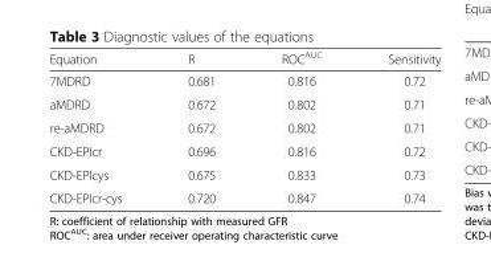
<table><thead><tr><td>Equation</td><td>R</td><td>ROC<sup>AUC</sup></td><td>Sensitivity</td></tr></thead><tbody><tr><td>7MDRD</td><td>0.681</td><td>0.816</td><td>0.72</td></tr><tr><td>aMDRD</td><td>0.672</td><td>0.802</td><td>0.71</td></tr><tr><td>re-aMDRD</td><td>0.672</td><td>0.802</td><td>0.71</td></tr><tr><td>CKD-EPIcr</td><td>0.696</td><td>0.816</td><td>0.72</td></tr><tr><td>CKD-EPIcys</td><td>0.675</td><td>0.833</td><td>0.73</td></tr><tr><td>CKD-EPIcr-cys</td><td>0.720</td><td>0.847</td><td>0.74</td></tr></tbody></table>